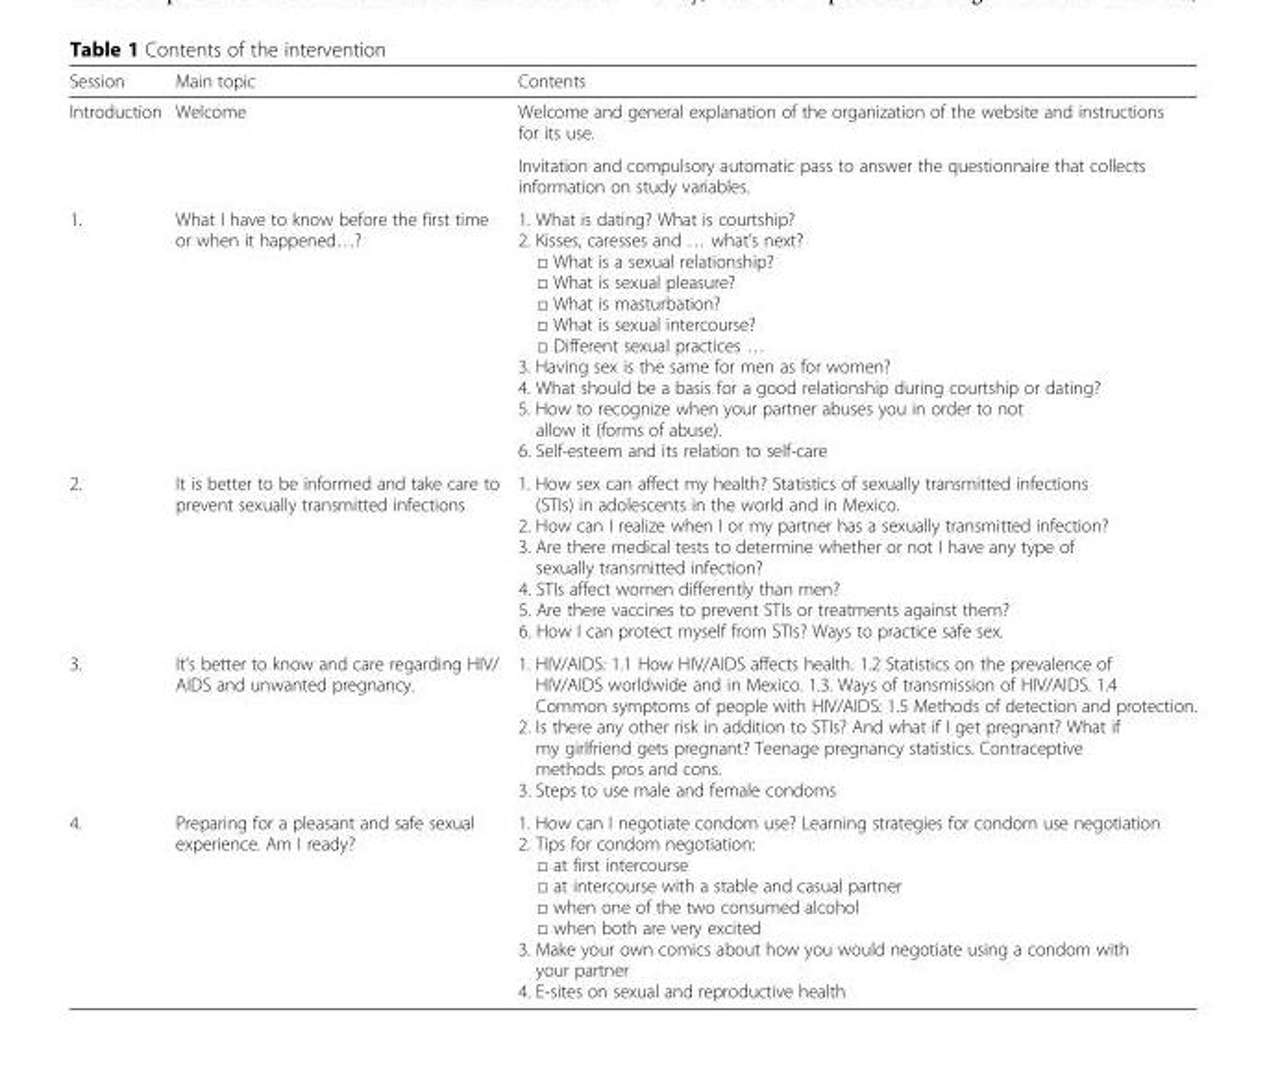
<table><thead><tr><td>Session</td><td>Main topic</td><td>Contents</td></tr></thead><tbody><tr><td rowspan="2">Introduction</td><td rowspan="2">Welcome</td><td>Welcome and general explanation of the organization of the website and instructions for its use.</td></tr><tr><td>Invitation and compulsory automatic pass to answer the questionnaire that collects information on study variables.</td></tr><tr><td>1.</td><td>What I have to know before the first time or when it happened…?</td><td>1. What is dating? What is courtship? 2. Kisses, caresses and … what’s next? □ What is a sexual relationship? □ What is sexual pleasure? □ What is masturbation? □ What is sexual intercourse? □ Different sexual practices … 3. Having sex is the same for men as for women? 4. What should be a basis for a good relationship during courtship or dating? 5. How to recognize when your partner abuses you in order to not allow it (forms of abuse). 6. Self-esteem and its relation to self-care</td></tr><tr><td>2.</td><td>It is better to be informed and take care to prevent sexually transmitted infections</td><td>1. How sex can affect my health? Statistics of sexually transmitted infections (STIs) in adolescents in the world and in Mexico. 2. How can I realize when I or my partner has a sexually transmitted infection? 3. Are there medical tests to determine whether or not I have any type of sexually transmitted infection? 4. STIs affect women differently than men? 5. Are there vaccines to prevent STIs or treatments against them? 6. How I can protect myself from STIs? Ways to practice safe sex.</td></tr><tr><td>3.</td><td>It&#x27;s better to know and care regarding HIV/ AIDS and unwanted pregnancy.</td><td>1. HIV/AIDS: 1.1 How HIV/AIDS affects health. 1.2 Statistics on the prevalence of HIV/AIDS worldwide and in Mexico. 1.3. Ways of transmission of HIV/AIDS. 1.4 Common symptoms of people with HIV/AIDS: 1.5 Methods of detection and protection. 2. Is there any other risk in addition to STIs? And what if I get pregnant? What if my girlfriend gets pregnant? Teenage pregnancy statistics. Contraceptive methods: pros and cons. 3. Steps to use male and female condoms</td></tr><tr><td>4.</td><td>Preparing for a pleasant and safe sexual experience. Am I ready?</td><td>1. How can I negotiate condom use? Learning strategies for condom use negotiation 2. Tips for condom negotiation: □ at first intercourse □ at intercourse with a stable and casual partner □ when one of the two consumed alcohol □ when both are very excited 3. Make your own comics about how you would negotiate using a condom with your partner 4. E-sites on sexual and reproductive health</td></tr></tbody></table>